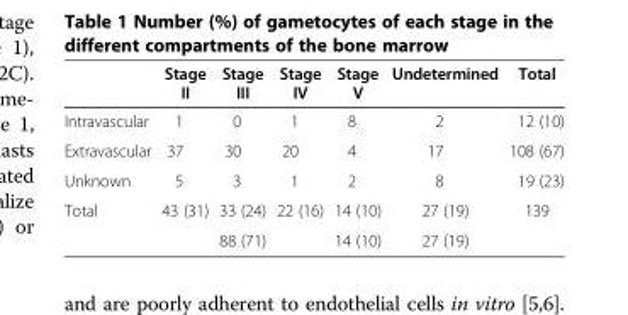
<table><thead><tr><td></td><td>Stage II</td><td>Stage III</td><td>Stage IV</td><td>Stage V</td><td>Undetermined</td><td>Total</td></tr></thead><tbody><tr><td>Intravascular</td><td>1</td><td>0</td><td>1</td><td>8</td><td>2</td><td>12 (10)</td></tr><tr><td>Extravascular</td><td>37</td><td>30</td><td>20</td><td>4</td><td>17</td><td>108 (67)</td></tr><tr><td>Unknown</td><td>5</td><td>3</td><td>1</td><td>2</td><td>8</td><td>19 (23)</td></tr><tr><td rowspan="2">Total</td><td>43 (31)</td><td>33 (24)</td><td>22 (16)</td><td>14 (10)</td><td>27 (19)</td><td>139</td></tr><tr><td colspan="3">88 (71)</td><td>14 (10)</td><td>27 (19)</td><td></td></tr></tbody></table>